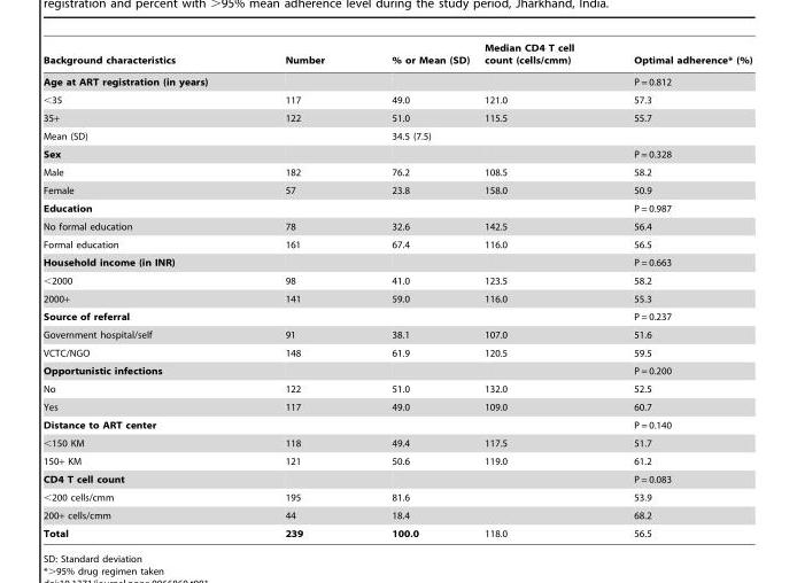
<table><thead><tr><td>Background characteristics</td><td>Number</td><td>% or Mean (SD)</td><td>Median CD4 T cell count (cells/cmm)</td><td>Optimal adherence* (%)</td></tr></thead><tbody><tr><td>Age at ART registration (in years)</td><td></td><td></td><td></td><td>P = 0.812</td></tr><tr><td>&lt;35</td><td>117</td><td>49.0</td><td>121.0</td><td>57.3</td></tr><tr><td>35+</td><td>122</td><td>51.0</td><td>115.5</td><td>55.7</td></tr><tr><td>Mean (SD)</td><td></td><td>34.5 (7.5)</td><td></td><td></td></tr><tr><td>Sex</td><td></td><td></td><td></td><td>P = 0.328</td></tr><tr><td>Male</td><td>182</td><td>76.2</td><td>108.5</td><td>58.2</td></tr><tr><td>Female</td><td>57</td><td>23.8</td><td>158.0</td><td>50.9</td></tr><tr><td>Education</td><td></td><td></td><td></td><td>P = 0.987</td></tr><tr><td>No formal education</td><td>78</td><td>32.6</td><td>142.5</td><td>56.4</td></tr><tr><td>Formal education</td><td>161</td><td>67.4</td><td>116.0</td><td>56.5</td></tr><tr><td>Household income (in INR)</td><td></td><td></td><td></td><td>P = 0.663</td></tr><tr><td>&lt;2000</td><td>98</td><td>41.0</td><td>123.5</td><td>58.2</td></tr><tr><td>2000+</td><td>141</td><td>59.0</td><td>116.0</td><td>55.3</td></tr><tr><td>Source of referral</td><td></td><td></td><td></td><td>P = 0.237</td></tr><tr><td>Government hospital/self</td><td>91</td><td>38.1</td><td>107.0</td><td>51.6</td></tr><tr><td>VCTC/NGO</td><td>148</td><td>61.9</td><td>120.5</td><td>59.5</td></tr><tr><td>Opportunistic infections</td><td></td><td></td><td></td><td>P = 0.200</td></tr><tr><td>No</td><td>122</td><td>51.0</td><td>132.0</td><td>52.5</td></tr><tr><td>Yes</td><td>117</td><td>49.0</td><td>109.0</td><td>60.7</td></tr><tr><td>Distance to ART center</td><td></td><td></td><td></td><td>P = 0.140</td></tr><tr><td>&lt;150 KM</td><td>118</td><td>49.4</td><td>117.5</td><td>51.7</td></tr><tr><td>150+ KM</td><td>121</td><td>50.6</td><td>119.0</td><td>61.2</td></tr><tr><td>CD4 T cell count</td><td></td><td></td><td></td><td>P = 0.083</td></tr><tr><td>&lt;200 cells/cmm</td><td>195</td><td>81.6</td><td></td><td>53.9</td></tr><tr><td>200+ cells/cmm</td><td>44</td><td>18.4</td><td></td><td>68.2</td></tr><tr><td>Total</td><td>239</td><td>100.0</td><td>118.0</td><td>56.5</td></tr></tbody></table>